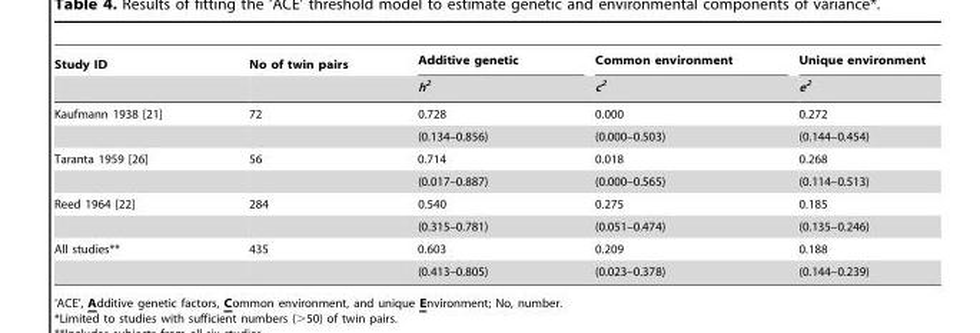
<table><thead><tr><td rowspan="2">Study ID</td><td rowspan="2">No of twin pairs</td><td rowspan="2">Additive genetic h<sup>2</sup></td><td rowspan="2">Common environment c<sup>2</sup></td><td rowspan="2">Unique environment e<sup>2</sup></td></tr><tr></tr></thead><tbody><tr><td rowspan="2">Kaufmann 1938 [21]</td><td>72</td><td>0.728</td><td>0.000</td><td>0.272</td></tr><tr><td></td><td>(0.134–0.856)</td><td>(0.000–0.503)</td><td>(0.144–0.454)</td></tr><tr><td rowspan="2">Taranta 1959 [26]</td><td>56</td><td>0.714</td><td>0.018</td><td>0.268</td></tr><tr><td></td><td>(0.017–0.887)</td><td>(0.000–0.565)</td><td>(0.114–0.513)</td></tr><tr><td rowspan="2">Reed 1964 [22]</td><td>284</td><td>0.540</td><td>0.275</td><td>0.185</td></tr><tr><td></td><td>(0.315–0.781)</td><td>(0.051–0.474)</td><td>(0.135–0.246)</td></tr><tr><td rowspan="2">All studies**</td><td>435</td><td>0.603</td><td>0.209</td><td>0.188</td></tr><tr><td></td><td>(0.413–0.805)</td><td>(0.023–0.378)</td><td>(0.144–0.239)</td></tr></tbody></table>